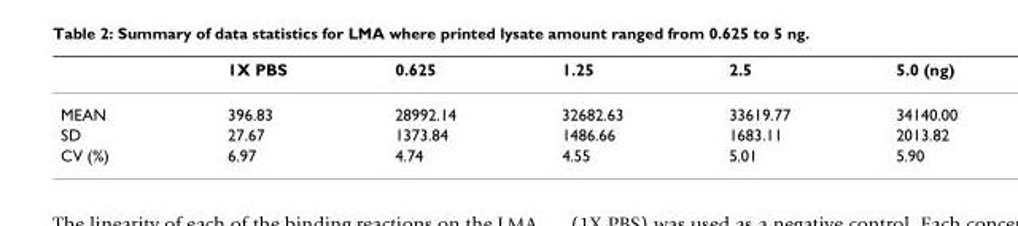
<table><thead><tr><td></td><td>1X PBS</td><td>0.625</td><td>1.25</td><td>2.5</td><td>5.0 (ng)</td></tr></thead><tbody><tr><td>MEAN</td><td>396.83</td><td>28992.14</td><td>32682.63</td><td>33619.77</td><td>34140.00</td></tr><tr><td>SD</td><td>27.67</td><td>1373.84</td><td>1486.66</td><td>1683.11</td><td>2013.82</td></tr><tr><td>CV (%)</td><td>6.97</td><td>4.74</td><td>4.55</td><td>5.01</td><td>5.90</td></tr></tbody></table>